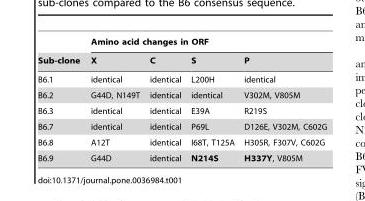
<table><thead><tr><td rowspan="2">Sub-clone</td><td colspan="4">Amino acid changes in ORF</td></tr><tr><td>X</td><td>C</td><td>S</td><td>P</td></tr></thead><tbody><tr><td>B6.1</td><td>identical</td><td>identical</td><td>L200H</td><td>identical</td></tr><tr><td>B6.2</td><td>G44D, N149T</td><td>identical</td><td>identical</td><td>V302M, V805M</td></tr><tr><td>B6.3</td><td>identical</td><td>identical</td><td>E39A</td><td>R219S</td></tr><tr><td>B6.7</td><td>identical</td><td>identical</td><td>P69L</td><td>D126E, V302M, C602G</td></tr><tr><td>B6.8</td><td>A12T</td><td>identical</td><td>I68T, T125A</td><td>H305R, F307V, C602G</td></tr><tr><td>B6.9</td><td>G44D</td><td>identical</td><td>N214S</td><td>H337Y, V805M</td></tr></tbody></table>